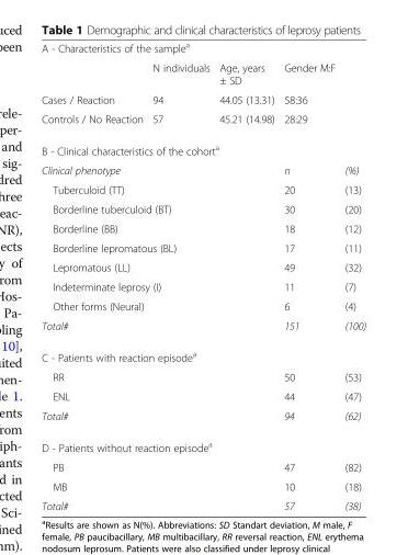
<table><tbody><tr><td colspan="5">A - Characteristics of the sample<sup>a</sup></td></tr><tr><td></td><td>N individuals</td><td>Age, years ± SD</td><td>Gender M:F</td><td></td></tr><tr><td>Cases / Reaction</td><td>94</td><td>44.05 (13.31)</td><td>58:36</td><td></td></tr><tr><td>Controls / No Reaction</td><td>57</td><td>45.21 (14.98)</td><td>28:29</td><td></td></tr><tr><td colspan="5">B - Clinical characteristics of the cohort<sup>a</sup></td></tr><tr><td colspan="3">Clinical phenotype</td><td>n</td><td>(%)</td></tr><tr><td colspan="3">Tuberculoid (TT)</td><td>20</td><td>(13)</td></tr><tr><td colspan="3">Borderline tuberculoid (BT)</td><td>30</td><td>(20)</td></tr><tr><td colspan="3">Borderline (BB)</td><td>18</td><td>(12)</td></tr><tr><td colspan="3">Borderline lepromatous (BL)</td><td>17</td><td>(11)</td></tr><tr><td colspan="3">Lepromatous (LL)</td><td>49</td><td>(32)</td></tr><tr><td colspan="3">Indeterminate leprosy (I)</td><td>11</td><td>(7)</td></tr><tr><td colspan="3">Other forms (Neural)</td><td>6</td><td>(4)</td></tr><tr><td colspan="3">Total#</td><td>151</td><td>(100)</td></tr><tr><td colspan="5">C - Patients with reaction episode<sup>a</sup></td></tr><tr><td colspan="3">RR</td><td>50</td><td>(53)</td></tr><tr><td colspan="3">ENL</td><td>44</td><td>(47)</td></tr><tr><td colspan="3">Total#</td><td>94</td><td>(62)</td></tr><tr><td colspan="5">D - Patients without reaction episode<sup>a</sup></td></tr><tr><td colspan="3">PB</td><td>47</td><td>(82)</td></tr><tr><td colspan="3">MB</td><td>10</td><td>(18)</td></tr><tr><td colspan="3">Total#</td><td>57</td><td>(38)</td></tr></tbody></table>